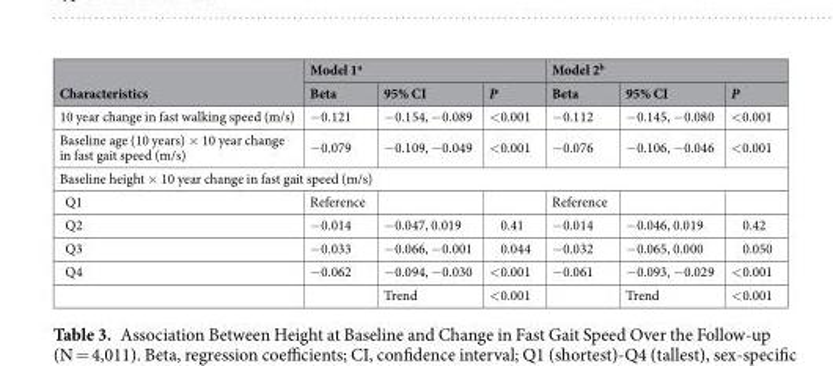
<table><thead><tr><td rowspan="2">Characteristics</td><td colspan="3">Model 1<sup>a</sup></td><td colspan="3">Model 2<sup>b</sup></td></tr><tr><td>Beta</td><td>95% CI</td><td>P</td><td>Beta</td><td>95% CI</td><td>P</td></tr></thead><tbody><tr><td>10 year change in fast walking speed (m/s)</td><td>−0.121</td><td>−0.154, −0.089</td><td>&lt;0.001</td><td>−0.112</td><td>−0.145, −0.080</td><td>&lt;0.001</td></tr><tr><td>Baseline age (10 years) × 10 year change in fast gait speed (m/s)</td><td>−0.079</td><td>−0.109, −0.049</td><td>&lt;0.001</td><td>−0.076</td><td>−0.106, −0.046</td><td>&lt;0.001</td></tr><tr><td colspan="7">Baseline height × 10 year change in fast gait speed (m/s)</td></tr><tr><td>Q1</td><td>Reference</td><td></td><td></td><td>Reference</td><td></td><td></td></tr><tr><td>Q2</td><td>−0.014</td><td>−0.047, 0.019</td><td>0.41</td><td>−0.014</td><td>−0.046, 0.019</td><td>0.42</td></tr><tr><td>Q3</td><td>−0.033</td><td>−0.066, −0.001</td><td>0.044</td><td>−0.032</td><td>−0.065, 0.000</td><td>0.050</td></tr><tr><td rowspan="2">Q4</td><td>−0.062</td><td>−0.094, −0.030</td><td>&lt;0.001</td><td>−0.061</td><td>−0.093, −0.029</td><td>&lt;0.001</td></tr><tr><td></td><td>Trend</td><td>&lt;0.001</td><td></td><td>Trend</td><td>&lt;0.001</td></tr></tbody></table>